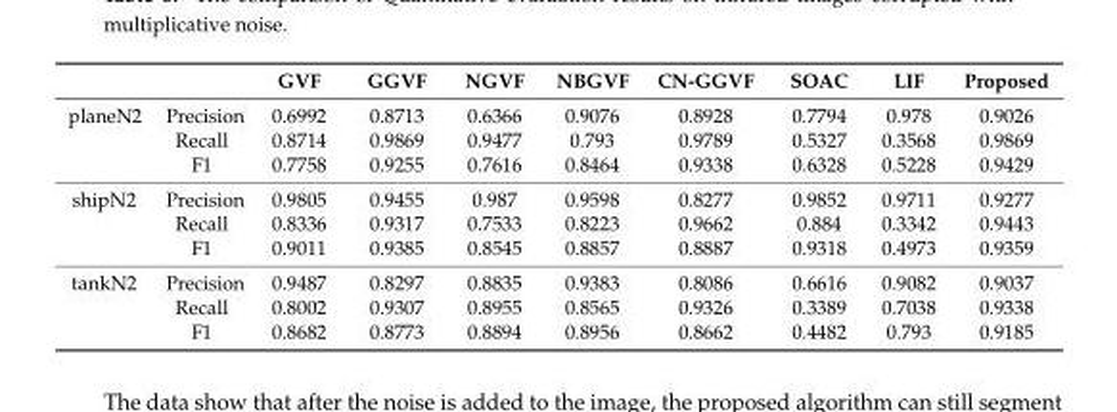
<table><thead><tr><td></td><td></td><td>GVF</td><td>GGVF</td><td>NGVF</td><td>NBGVF</td><td>CN-GGVF</td><td>SOAC</td><td>LIF</td><td>Proposed</td></tr></thead><tbody><tr><td rowspan="3">planeN2</td><td>Precision</td><td>0.6992</td><td>0.8713</td><td>0.6366</td><td>0.9076</td><td>0.8928</td><td>0.7794</td><td>0.978</td><td>0.9026</td></tr><tr><td>Recall</td><td>0.8714</td><td>0.9869</td><td>0.9477</td><td>0.793</td><td>0.9789</td><td>0.5327</td><td>0.3568</td><td>0.9869</td></tr><tr><td>F1</td><td>0.7758</td><td>0.9255</td><td>0.7616</td><td>0.8464</td><td>0.9338</td><td>0.6328</td><td>0.5228</td><td>0.9429</td></tr><tr><td rowspan="3">shipN2</td><td>Precision</td><td>0.9805</td><td>0.9455</td><td>0.987</td><td>0.9598</td><td>0.8277</td><td>0.9852</td><td>0.9711</td><td>0.9277</td></tr><tr><td>Recall</td><td>0.8336</td><td>0.9317</td><td>0.7533</td><td>0.8223</td><td>0.9662</td><td>0.884</td><td>0.3342</td><td>0.9443</td></tr><tr><td>F1</td><td>0.9011</td><td>0.9385</td><td>0.8545</td><td>0.8857</td><td>0.8887</td><td>0.9318</td><td>0.4973</td><td>0.9359</td></tr><tr><td rowspan="3">tankN2</td><td>Precision</td><td>0.9487</td><td>0.8297</td><td>0.8835</td><td>0.9383</td><td>0.8086</td><td>0.6616</td><td>0.9082</td><td>0.9037</td></tr><tr><td>Recall</td><td>0.8002</td><td>0.9307</td><td>0.8955</td><td>0.8565</td><td>0.9326</td><td>0.3389</td><td>0.7038</td><td>0.9338</td></tr><tr><td>F1</td><td>0.8682</td><td>0.8773</td><td>0.8894</td><td>0.8956</td><td>0.8662</td><td>0.4482</td><td>0.793</td><td>0.9185</td></tr></tbody></table>